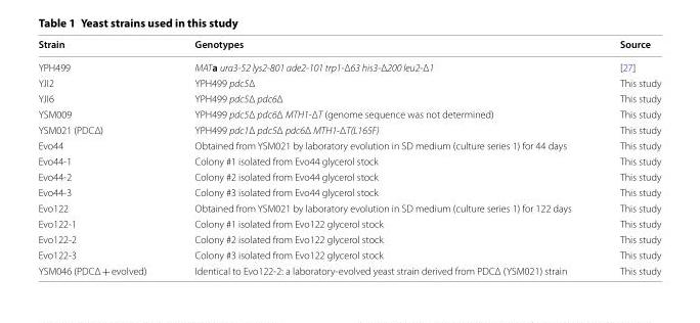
<table><thead><tr><td>Strain</td><td>Genotypes</td><td>Source</td></tr></thead><tbody><tr><td>YPH499</td><td>MATa ura3-52 lys2-801 ade2-101 trp1-Δ63 his3-Δ200 leu2-Δ1</td><td>[27]</td></tr><tr><td>YJI2</td><td>YPH499 pdc5Δ</td><td>This study</td></tr><tr><td>YJI6</td><td>YPH499 pdc5Δ pdc6Δ</td><td>This study</td></tr><tr><td>YSM009</td><td>YPH499 pdc5Δ pdc6Δ MTH1-ΔT (genome sequence was not determined)</td><td>This study</td></tr><tr><td>YSM021 (PDCΔ)</td><td>YPH499 pdc1Δ pdc5Δ pdc6Δ MTH1-ΔT(L165F)</td><td>This study</td></tr><tr><td>Evo44</td><td>Obtained from YSM021 by laboratory evolution in SD medium (culture series 1) for 44 days</td><td>This study</td></tr><tr><td>Evo44-1</td><td>Colony #1 isolated from Evo44 glycerol stock</td><td>This study</td></tr><tr><td>Evo44-2</td><td>Colony #2 isolated from Evo44 glycerol stock</td><td>This study</td></tr><tr><td>Evo44-3</td><td>Colony #3 isolated from Evo44 glycerol stock</td><td>This study</td></tr><tr><td>Evo122</td><td>Obtained from YSM021 by laboratory evolution in SD medium (culture series 1) for 122 days</td><td>This study</td></tr><tr><td>Evo122-1</td><td>Colony #1 isolated from Evo122 glycerol stock</td><td>This study</td></tr><tr><td>Evo122-2</td><td>Colony #2 isolated from Evo122 glycerol stock</td><td>This study</td></tr><tr><td>Evo122-3</td><td>Colony #3 isolated from Evo122 glycerol stock</td><td>This study</td></tr><tr><td>YSM046 (PDCΔ + evolved)</td><td>Identical to Evo122-2: a laboratory-evolved yeast strain derived from PDCΔ (YSM021) strain</td><td>This study</td></tr></tbody></table>